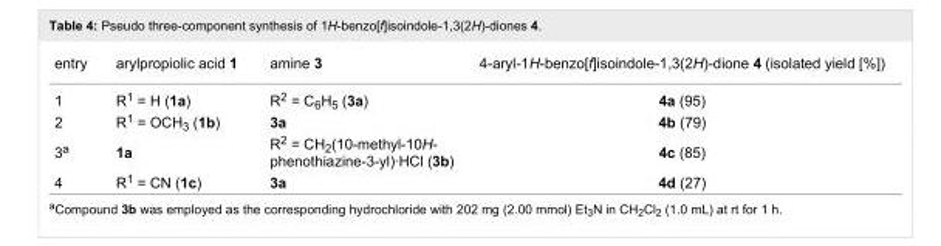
<table><tbody><tr><td>entry</td><td>arylpropiolic acid 1</td><td>amine 3</td><td>4-aryl-1H-benzo[f]isoindole-1,3(2H)-dione 4 (isolated yield [%])</td></tr><tr><td>1</td><td>R<sup>1</sup> = H (1a)</td><td>R<sup>2</sup> = C<sub>6</sub>H<sub>5</sub> (3a)</td><td>4a (95)</td></tr><tr><td>2</td><td>R<sup>1</sup> = OCH<sub>3</sub> (1b)</td><td>3a</td><td>4b (79)</td></tr><tr><td>3<sup>a</sup></td><td>1a</td><td>R<sup>2</sup> = CH<sub>2</sub>(10-methyl-10H- phenothiazine-3-yl)∙HCl (3b)</td><td>4c (85)</td></tr><tr><td>4</td><td>R<sup>1</sup> = CN (1c)</td><td>3a</td><td>4d (27)</td></tr></tbody></table>